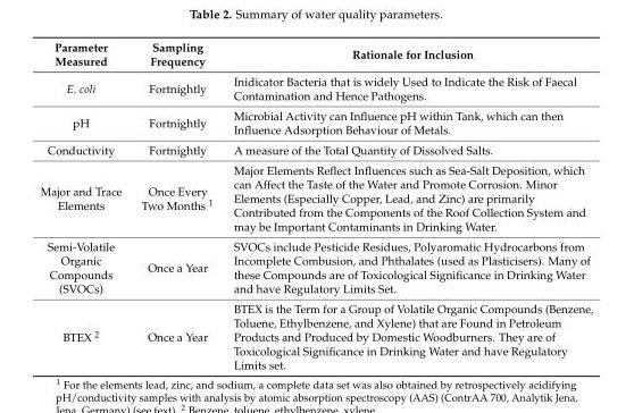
<table><thead><tr><td>Parameter Measured</td><td>Sampling Frequency</td><td>Rationale for Inclusion</td></tr></thead><tbody><tr><td>E. coli</td><td>Fortnightly</td><td>Inidicator Bacteria that is widely Used to Indicate the Risk of Faecal Contamination and Hence Pathogens.</td></tr><tr><td>pH</td><td>Fortnightly</td><td>Microbial Activity can Influence pH within Tank, which can then Influence Adsorption Behaviour of Metals.</td></tr><tr><td>Conductivity</td><td>Fortnightly</td><td>A measure of the Total Quantity of Dissolved Salts.</td></tr><tr><td>Major and Trace Elements</td><td>Once Every Two Months <sup>1</sup></td><td>Major Elements Reflect Influences such as Sea-Salt Deposition, which can Affect the Taste of the Water and Promote Corrosion. Minor Elements (Especially Copper, Lead, and Zinc) are primarily Contributed from the Components of the Roof Collection System and may be Important Contaminants in Drinking Water.</td></tr><tr><td>Semi-Volatile Organic Compounds (SVOCs)</td><td>Once a Year</td><td>SVOCs include Pesticide Residues, Polyaromatic Hydrocarbons from Incomplete Combusion, and Phthalates (used as Plasticisers). Many of these Compounds are of Toxicological Significance in Drinking Water and have Regulatory Limits Set.</td></tr><tr><td>BTEX <sup>2</sup></td><td>Once a Year</td><td>BTEX is the Term for a Group of Volatile Organic Compounds (Benzene, Toluene, Ethylbenzene, and Xylene) that are Found in Petroleum Products and Produced by Domestic Woodburners. They are of Toxicological Significance in Drinking Water and have Regulatory Limits set.</td></tr></tbody></table>